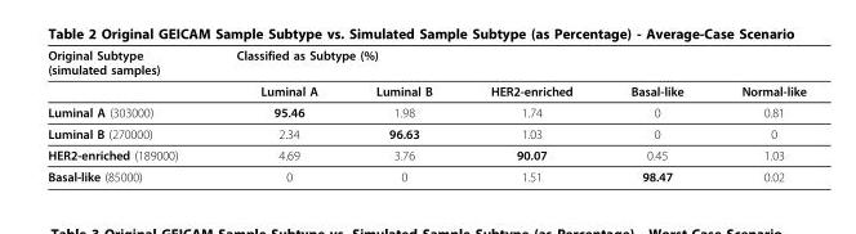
<table><thead><tr><td rowspan="2">Original Subtype (simulated samples)</td><td colspan="5">Classified as Subtype (%)</td></tr><tr><td>Luminal A</td><td>Luminal B</td><td>HER2-enriched</td><td>Basal-like</td><td>Normal-like</td></tr></thead><tbody><tr><td>Luminal A (303000)</td><td>95.46</td><td>1.98</td><td>1.74</td><td>0</td><td>0.81</td></tr><tr><td>Luminal B (270000)</td><td>2.34</td><td>96.63</td><td>1.03</td><td>0</td><td>0</td></tr><tr><td>HER2-enriched (189000)</td><td>4.69</td><td>3.76</td><td>90.07</td><td>0.45</td><td>1.03</td></tr><tr><td>Basal-like (85000)</td><td>0</td><td>0</td><td>1.51</td><td>98.47</td><td>0.02</td></tr></tbody></table>